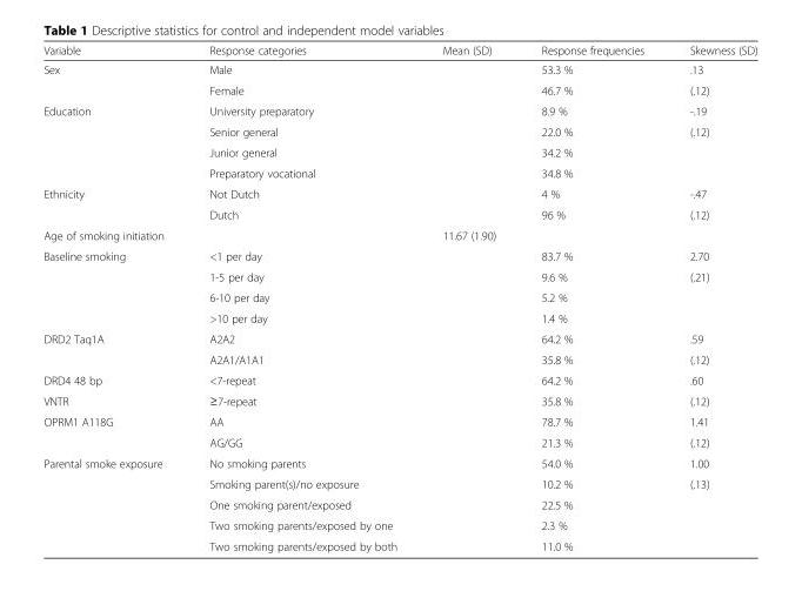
<table><thead><tr><td>Variable</td><td>Response categories</td><td>Mean (SD)</td><td>Response frequencies</td><td>Skewness (SD)</td></tr></thead><tbody><tr><td rowspan="2">Sex</td><td>Male</td><td></td><td>53.3 %</td><td>.13</td></tr><tr><td>Female</td><td></td><td>46.7 %</td><td>(.12)</td></tr><tr><td rowspan="4">Education</td><td>University preparatory</td><td></td><td>8.9 %</td><td>-.19</td></tr><tr><td>Senior general</td><td></td><td>22.0 %</td><td rowspan="3">(.12)</td></tr><tr><td>Junior general</td><td></td><td>34.2 %</td></tr><tr><td>Preparatory vocational</td><td></td><td>34.8 %</td></tr><tr><td rowspan="2">Ethnicity</td><td>Not Dutch</td><td></td><td>4 %</td><td>-.47</td></tr><tr><td>Dutch</td><td></td><td>96 %</td><td>(.12)</td></tr><tr><td>Age of smoking initiation</td><td></td><td>11.67 (1.90)</td><td></td><td></td></tr><tr><td rowspan="4">Baseline smoking</td><td>&lt;1 per day</td><td></td><td>83.7 %</td><td>2.70</td></tr><tr><td>1-5 per day</td><td></td><td>9.6 %</td><td rowspan="3">(.21)</td></tr><tr><td>6-10 per day</td><td></td><td>5.2 %</td></tr><tr><td>&gt;10 per day</td><td></td><td>1.4 %</td></tr><tr><td rowspan="2">DRD2 Taq1A</td><td>A2A2</td><td></td><td>64.2 %</td><td>.59</td></tr><tr><td>A2A1/A1A1</td><td></td><td>35.8 %</td><td>(.12)</td></tr><tr><td>DRD4 48 bp</td><td>&lt;7-repeat</td><td></td><td>64.2 %</td><td>.60</td></tr><tr><td>VNTR</td><td>≥7-repeat</td><td></td><td>35.8 %</td><td>(.12)</td></tr><tr><td rowspan="2">OPRM1 A118G</td><td>AA</td><td></td><td>78.7 %</td><td>1.41</td></tr><tr><td>AG/GG</td><td></td><td>21.3 %</td><td>(.12)</td></tr><tr><td rowspan="5">Parental smoke exposure</td><td>No smoking parents</td><td></td><td>54.0 %</td><td>1.00</td></tr><tr><td>Smoking parent(s)/no exposure</td><td></td><td>10.2 %</td><td rowspan="4">(.13)</td></tr><tr><td>One smoking parent/exposed</td><td></td><td>22.5 %</td></tr><tr><td>Two smoking parents/exposed by one</td><td></td><td>2.3 %</td></tr><tr><td>Two smoking parents/exposed by both</td><td></td><td>11.0 %</td></tr></tbody></table>